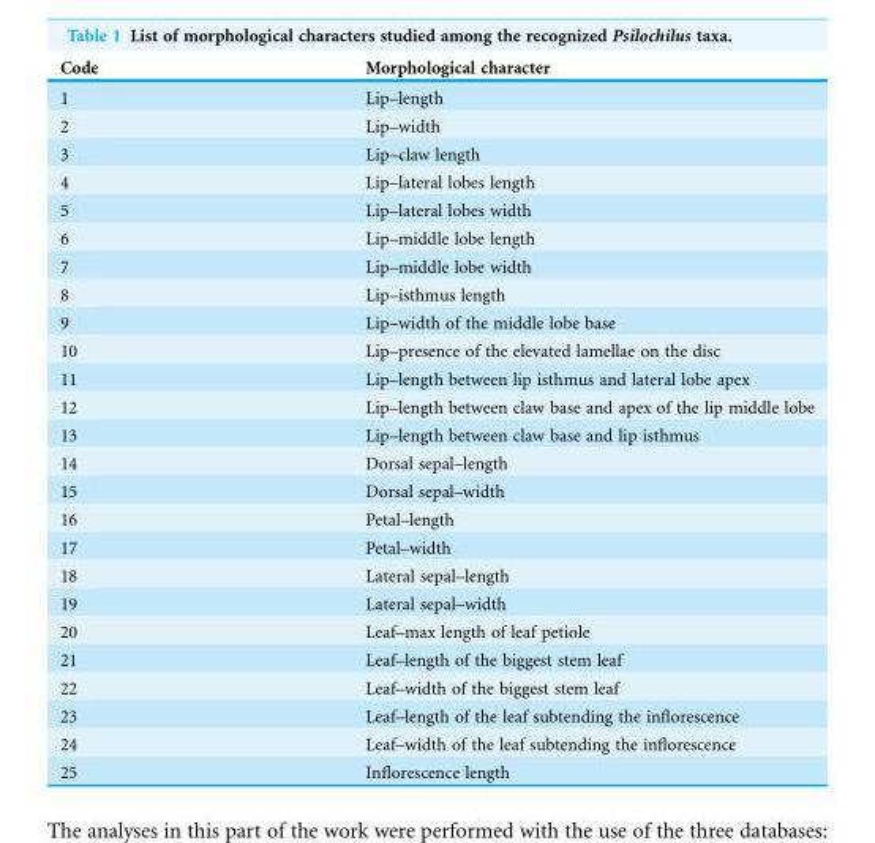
<table><thead><tr><td>Code</td><td>Morphological character</td></tr></thead><tbody><tr><td>1</td><td>Lip–length</td></tr><tr><td>2</td><td>Lip–width</td></tr><tr><td>3</td><td>Lip–claw length</td></tr><tr><td>4</td><td>Lip–lateral lobes length</td></tr><tr><td>5</td><td>Lip–lateral lobes width</td></tr><tr><td>6</td><td>Lip–middle lobe length</td></tr><tr><td>7</td><td>Lip–middle lobe width</td></tr><tr><td>8</td><td>Lip–isthmus length</td></tr><tr><td>9</td><td>Lip–width of the middle lobe base</td></tr><tr><td>10</td><td>Lip–presence of the elevated lamellae on the disc</td></tr><tr><td>11</td><td>Lip–length between lip isthmus and lateral lobe apex</td></tr><tr><td>12</td><td>Lip–length between claw base and apex of the lip middle lobe</td></tr><tr><td>13</td><td>Lip–length between claw base and lip isthmus</td></tr><tr><td>14</td><td>Dorsal sepal–length</td></tr><tr><td>15</td><td>Dorsal sepal–width</td></tr><tr><td>16</td><td>Petal–length</td></tr><tr><td>17</td><td>Petal–width</td></tr><tr><td>18</td><td>Lateral sepal–length</td></tr><tr><td>19</td><td>Lateral sepal–width</td></tr><tr><td>20</td><td>Leaf–max length of leaf petiole</td></tr><tr><td>21</td><td>Leaf–length of the biggest stem leaf</td></tr><tr><td>22</td><td>Leaf–width of the biggest stem leaf</td></tr><tr><td>23</td><td>Leaf–length of the leaf subtending the inflorescence</td></tr><tr><td>24</td><td>Leaf–width of the leaf subtending the inflorescence</td></tr><tr><td>25</td><td>Inflorescence length</td></tr></tbody></table>